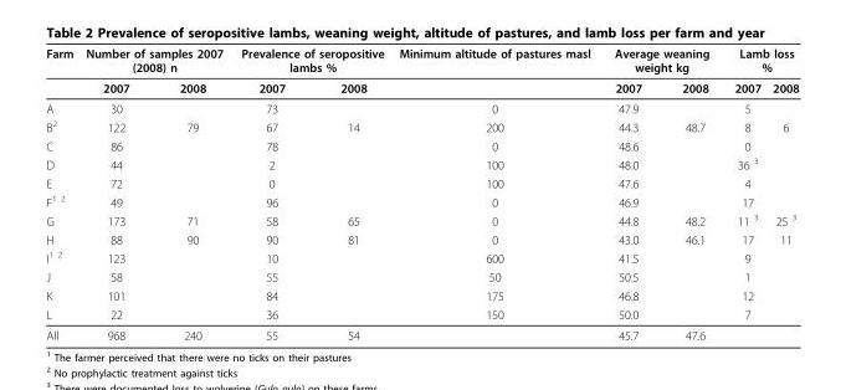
<table><thead><tr><td rowspan="2">Farm</td><td colspan="2">Number of samples 2007 (2008) n</td><td colspan="2">Prevalence of seropositive lambs %</td><td rowspan="2">Minimum altitude of pastures masl</td><td colspan="2">Average weaning weight kg</td><td colspan="2">Lamb loss %</td></tr><tr><td>2007</td><td>2008</td><td>2007</td><td>2008</td><td>2007</td><td>2008</td><td>2007</td><td>2008</td></tr></thead><tbody><tr><td>A</td><td>30</td><td></td><td>73</td><td></td><td>0</td><td>47.9</td><td></td><td>5</td><td></td></tr><tr><td>B<sup>2</sup></td><td>122</td><td>79</td><td>67</td><td>14</td><td>200</td><td>44.3</td><td>48.7</td><td>8</td><td>6</td></tr><tr><td>C</td><td>86</td><td></td><td>78</td><td></td><td>0</td><td>48.6</td><td></td><td>0</td><td></td></tr><tr><td>D</td><td>44</td><td></td><td>2</td><td></td><td>100</td><td>48.0</td><td></td><td>36 <sup>3</sup></td><td></td></tr><tr><td>E</td><td>72</td><td></td><td>0</td><td></td><td>100</td><td>47.6</td><td></td><td>4</td><td></td></tr><tr><td>F<sup>1 2</sup></td><td>49</td><td></td><td>96</td><td></td><td>0</td><td>46.9</td><td></td><td>17</td><td></td></tr><tr><td>G</td><td>173</td><td>71</td><td>58</td><td>65</td><td>0</td><td>44.8</td><td>48.2</td><td>11 <sup>3</sup></td><td>25 <sup>3</sup></td></tr><tr><td>H</td><td>88</td><td>90</td><td>90</td><td>81</td><td>0</td><td>43.0</td><td>46.1</td><td>17</td><td>11</td></tr><tr><td>I<sup>1 2</sup></td><td>123</td><td></td><td>10</td><td></td><td>600</td><td>41.5</td><td></td><td>9</td><td></td></tr><tr><td>J</td><td>58</td><td></td><td>55</td><td></td><td>50</td><td>50.5</td><td></td><td>1</td><td></td></tr><tr><td>K</td><td>101</td><td></td><td>84</td><td></td><td>175</td><td>46.8</td><td></td><td>12</td><td></td></tr><tr><td>L</td><td>22</td><td></td><td>36</td><td></td><td>150</td><td>50.0</td><td></td><td>7</td><td></td></tr><tr><td>All</td><td>968</td><td>240</td><td>55</td><td>54</td><td></td><td>45.7</td><td>47.6</td><td></td><td></td></tr></tbody></table>